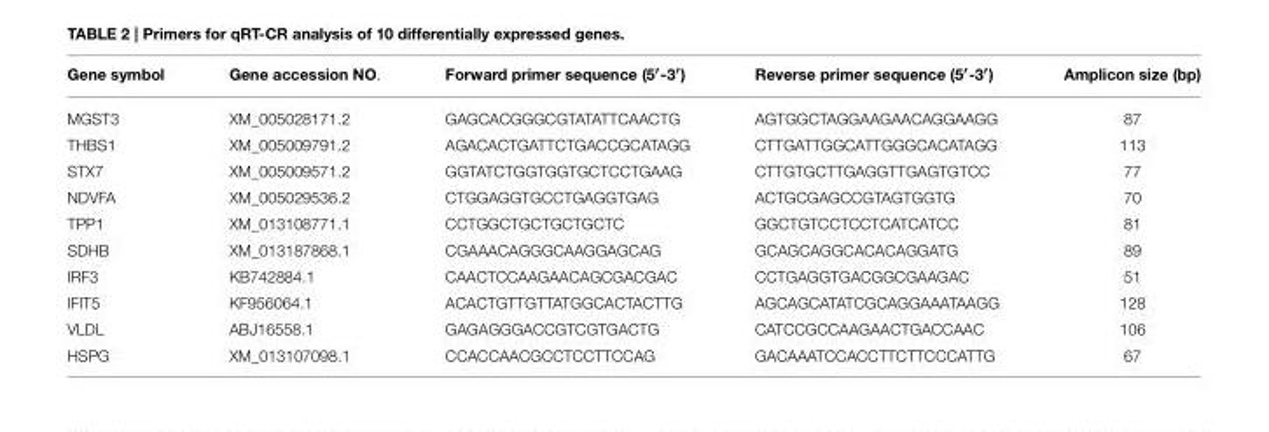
<table><thead><tr><td>Gene symbol</td><td>Gene accession NO.</td><td>Forward primer sequence (5′-3′)</td><td>Reverse primer sequence (5′-3′)</td><td>Amplicon size (bp)</td></tr></thead><tbody><tr><td>MGST3</td><td>XM_005028171.2</td><td>GAGCACGGGCGTATATTCAACTG</td><td>AGTGGCTAGGAAGAACAGGAAGG</td><td>87</td></tr><tr><td>THBS1</td><td>XM_005009791.2</td><td>AGACACTGATTCTGACCGCATAGG</td><td>CTTGATTGGCATTGGGCACATAGG</td><td>113</td></tr><tr><td>STX7</td><td>XM_005009571.2</td><td>GGTATCTGGTGGTGCTCCTGAAG</td><td>CTTGTGCTTGAGGTTGAGTGTCC</td><td>77</td></tr><tr><td>NDVFA</td><td>XM_005029536.2</td><td>CTGGAGGTGCCTGAGGTGAG</td><td>ACTGCGAGCCGTAGTGGTG</td><td>70</td></tr><tr><td>TPP1</td><td>XM_013108771.1</td><td>CCTGGCTGCTGCTGCTC</td><td>GGCTGTCCTCCTCATCATCC</td><td>81</td></tr><tr><td>SDHB</td><td>XM_013187868.1</td><td>CGAAACAGGGCAAGGAGCAG</td><td>GCAGCAGGCACACAGGATG</td><td>89</td></tr><tr><td>IRF3</td><td>KB742884.1</td><td>CAACTCCAAGAACAGCGACGAC</td><td>CCTGAGGTGACGGCGAAGAC</td><td>51</td></tr><tr><td>IFIT5</td><td>KF956064.1</td><td>ACACTGTTGTTATGGCACTACTTG</td><td>AGCAGCATATCGCAGGAAATAAGG</td><td>128</td></tr><tr><td>VLDL</td><td>ABJ16558.1</td><td>GAGAGGGACCGTCGTGACTG</td><td>CATCCGCCAAGAACTGACCAAC</td><td>106</td></tr><tr><td>HSPG</td><td>XM_013107098.1</td><td>CCACCAACGCCTCCTTCCAG</td><td>GACAAATCCACCTTCTTCCCATTG</td><td>67</td></tr></tbody></table>